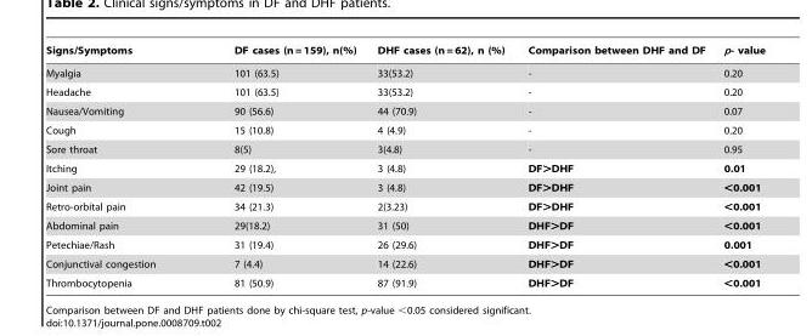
<table><thead><tr><td>Signs/Symptoms</td><td>DF cases (n = 159), n(%)</td><td>DHF cases (n = 62), n (%)</td><td>Comparison between DHF and DF</td><td>p- value</td></tr></thead><tbody><tr><td>Myalgia</td><td>101 (63.5)</td><td>33(53.2)</td><td>-</td><td>0.20</td></tr><tr><td>Headache</td><td>101 (63.5)</td><td>33(53.2)</td><td>-</td><td>0.20</td></tr><tr><td>Nausea/Vomiting</td><td>90 (56.6)</td><td>44 (70.9)</td><td>-</td><td>0.07</td></tr><tr><td>Cough</td><td>15 (10.8)</td><td>4 (4.9)</td><td>-</td><td>0.20</td></tr><tr><td>Sore throat</td><td>8(5)</td><td>3(4.8)</td><td>-</td><td>0.95</td></tr><tr><td>Itching</td><td>29 (18.2),</td><td>3 (4.8)</td><td>DF&gt;DHF</td><td>0.01</td></tr><tr><td>Joint pain</td><td>42 (19.5)</td><td>3 (4.8)</td><td>DF&gt;DHF</td><td>&lt;0.001</td></tr><tr><td>Retro-orbital pain</td><td>34 (21.3)</td><td>2(3.23)</td><td>DF&gt;DHF</td><td>&lt;0.001</td></tr><tr><td>Abdominal pain</td><td>29(18.2)</td><td>31 (50)</td><td>DHF&gt;DF</td><td>&lt;0.001</td></tr><tr><td>Petechiae/Rash</td><td>31 (19.4)</td><td>26 (29.6)</td><td>DHF&gt;DF</td><td>0.001</td></tr><tr><td>Conjunctival congestion</td><td>7 (4.4)</td><td>14 (22.6)</td><td>DHF&gt;DF</td><td>&lt;0.001</td></tr><tr><td>Thrombocytopenia</td><td>81 (50.9)</td><td>87 (91.9)</td><td>DHF&gt;DF</td><td>&lt;0.001</td></tr></tbody></table>